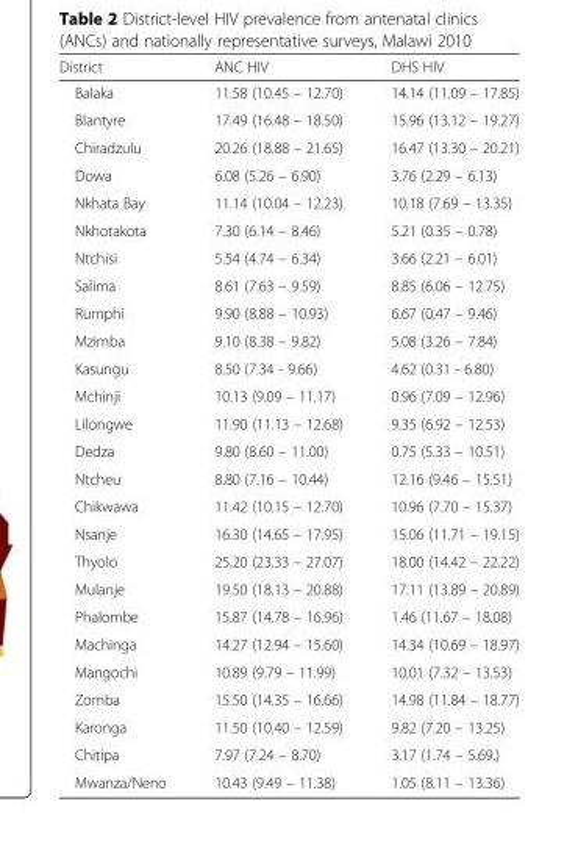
<table><thead><tr><td>District</td><td>ANC HIV</td><td>DHS HIV</td></tr></thead><tbody><tr><td>Balaka</td><td>11.58 (10.45 – 12.70)</td><td>14.14 (11.09 – 17.85)</td></tr><tr><td>Blantyre</td><td>17.49 (16.48 – 18.50)</td><td>15.96 (13.12 – 19.27)</td></tr><tr><td>Chiradzulu</td><td>20.26 (18.88 – 21.65)</td><td>16.47 (13.30 – 20.21)</td></tr><tr><td>Dowa</td><td>6.08 (5.26 – 6.90)</td><td>3.76 (2.29 – 6.13)</td></tr><tr><td>Nkhata Bay</td><td>11.14 (10.04 – 12.23)</td><td>10.18 (7.69 – 13.35)</td></tr><tr><td>Nkhotakota</td><td>7.30 (6.14 – 8.46)</td><td>5.21 (0.35 – 0.78)</td></tr><tr><td>Ntchisi</td><td>5.54 (4.74 – 6.34)</td><td>3.66 (2.21 – 6.01)</td></tr><tr><td>Salima</td><td>8.61 (7.63 – 9.59)</td><td>8.85 (6.06 – 12.75)</td></tr><tr><td>Rumphi</td><td>9.90 (8.88 – 10.93)</td><td>6.67 (0.47 – 9.46)</td></tr><tr><td>Mzimba</td><td>9.10 (8.38 – 9.82)</td><td>5.08 (3.26 – 7.84)</td></tr><tr><td>Kasungu</td><td>8.50 (7.34 - 9.66)</td><td>4.62 (0.31 - 6.80)</td></tr><tr><td>Mchinji</td><td>10.13 (9.09 – 11.17)</td><td>0.96 (7.09 – 12.96)</td></tr><tr><td>Lilongwe</td><td>11.90 (11.13 – 12.68)</td><td>9.35 (6.92 – 12.53)</td></tr><tr><td>Dedza</td><td>9.80 (8.60 – 11.00)</td><td>0.75 (5.33 – 10.51)</td></tr><tr><td>Ntcheu</td><td>8.80 (7.16 – 10.44)</td><td>12.16 (9.46 – 15.51)</td></tr><tr><td>Chikwawa</td><td>11.42 (10.15 – 12.70)</td><td>10.96 (7.70 – 15.37)</td></tr><tr><td>Nsanje</td><td>16.30 (14.65 – 17.95)</td><td>15.06 (11.71 – 19.15)</td></tr><tr><td>Thyolo</td><td>25.20 (23.33 – 27.07)</td><td>18.00 (14.42 – 22.22)</td></tr><tr><td>Mulanje</td><td>19.50 (18.13 – 20.88)</td><td>17.11 (13.89 – 20.89)</td></tr><tr><td>Phalombe</td><td>15.87 (14.78 – 16.96)</td><td>1.46 (11.67 – 18.08)</td></tr><tr><td>Machinga</td><td>14.27 (12.94 – 15.60)</td><td>14.34 (10.69 – 18.97)</td></tr><tr><td>Mangochi</td><td>10.89 (9.79 – 11.99)</td><td>10.01 (7.32 – 13.53)</td></tr><tr><td>Zomba</td><td>15.50 (14.35 – 16.66)</td><td>14.98 (11.84 – 18.77)</td></tr><tr><td>Karonga</td><td>11.50 (10.40 – 12.59)</td><td>9.82 (7.20 – 13.25)</td></tr><tr><td>Chitipa</td><td>7.97 (7.24 – 8.70)</td><td>3.17 (1.74 – 5.69.)</td></tr><tr><td>Mwanza/Neno</td><td>10.43 (9.49 – 11.38)</td><td>1.05 (8.11 – 13.36)</td></tr></tbody></table>